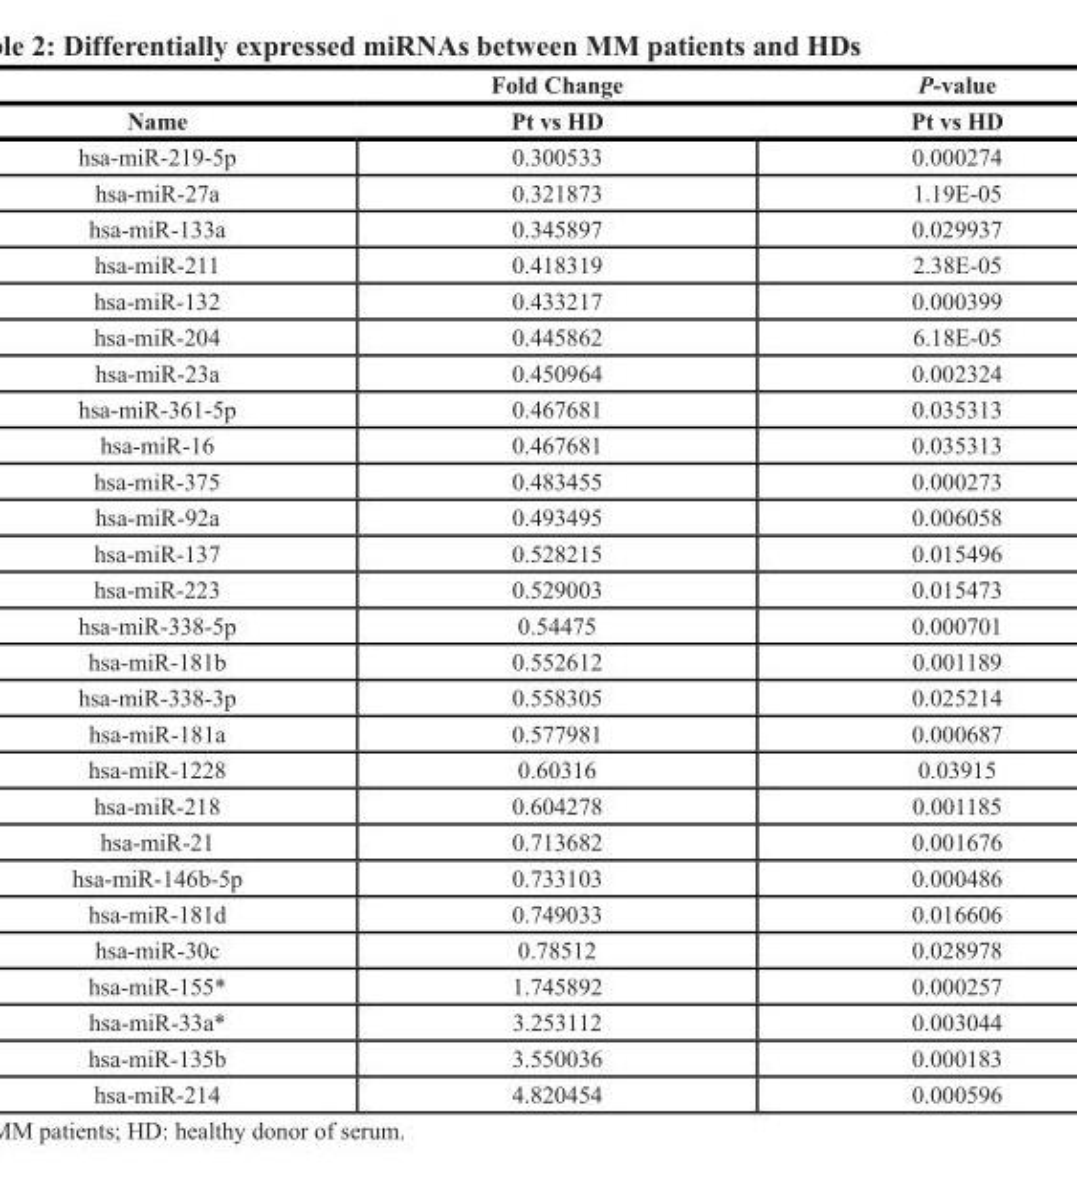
<table><thead><tr><td rowspan="2">Name</td><td rowspan="2">Fold Change Pt vs HD</td><td rowspan="2">P-value Pt vs HD</td></tr><tr></tr></thead><tbody><tr><td>hsa-miR-219-5p</td><td>0.300533</td><td>0.000274</td></tr><tr><td>hsa-miR-27a</td><td>0.321873</td><td>1.19E-05</td></tr><tr><td>hsa-miR-133a</td><td>0.345897</td><td>0.029937</td></tr><tr><td>hsa-miR-211</td><td>0.418319</td><td>2.38E-05</td></tr><tr><td>hsa-miR-132</td><td>0.433217</td><td>0.000399</td></tr><tr><td>hsa-miR-204</td><td>0.445862</td><td>6.18E-05</td></tr><tr><td>hsa-miR-23a</td><td>0.450964</td><td>0.002324</td></tr><tr><td>hsa-miR-361-5p</td><td>0.467681</td><td>0.035313</td></tr><tr><td>hsa-miR-16</td><td>0.467681</td><td>0.035313</td></tr><tr><td>hsa-miR-375</td><td>0.483455</td><td>0.000273</td></tr><tr><td>hsa-miR-92a</td><td>0.493495</td><td>0.006058</td></tr><tr><td>hsa-miR-137</td><td>0.528215</td><td>0.015496</td></tr><tr><td>hsa-miR-223</td><td>0.529003</td><td>0.015473</td></tr><tr><td>hsa-miR-338-5p</td><td>0.54475</td><td>0.000701</td></tr><tr><td>hsa-miR-181b</td><td>0.552612</td><td>0.001189</td></tr><tr><td>hsa-miR-338-3p</td><td>0.558305</td><td>0.025214</td></tr><tr><td>hsa-miR-181a</td><td>0.577981</td><td>0.000687</td></tr><tr><td>hsa-miR-1228</td><td>0.60316</td><td>0.03915</td></tr><tr><td>hsa-miR-218</td><td>0.604278</td><td>0.001185</td></tr><tr><td>hsa-miR-21</td><td>0.713682</td><td>0.001676</td></tr><tr><td>hsa-miR-146b-5p</td><td>0.733103</td><td>0.000486</td></tr><tr><td>hsa-miR-181d</td><td>0.749033</td><td>0.016606</td></tr><tr><td>hsa-miR-30c</td><td>0.78512</td><td>0.028978</td></tr><tr><td>hsa-miR-155*</td><td>1.745892</td><td>0.000257</td></tr><tr><td>hsa-miR-33a*</td><td>3.253112</td><td>0.003044</td></tr><tr><td>hsa-miR-135b</td><td>3.550036</td><td>0.000183</td></tr><tr><td>hsa-miR-214</td><td>4.820454</td><td>0.000596</td></tr></tbody></table>